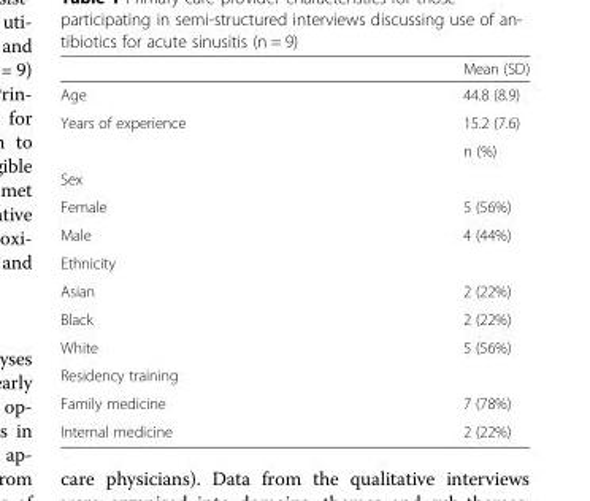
<table><thead><tr><td></td><td>Mean (SD)</td></tr></thead><tbody><tr><td>Age</td><td>44.8 (8.9)</td></tr><tr><td rowspan="2">Years of experience</td><td>15.2 (7.6)</td></tr><tr><td>n (%)</td></tr><tr><td colspan="2">Sex</td></tr><tr><td>Female</td><td>5 (56%)</td></tr><tr><td>Male</td><td>4 (44%)</td></tr><tr><td colspan="2">Ethnicity</td></tr><tr><td>Asian</td><td>2 (22%)</td></tr><tr><td>Black</td><td>2 (22%)</td></tr><tr><td>White</td><td>5 (56%)</td></tr><tr><td colspan="2">Residency training</td></tr><tr><td>Family medicine</td><td>7 (78%)</td></tr><tr><td>Internal medicine</td><td>2 (22%)</td></tr></tbody></table>